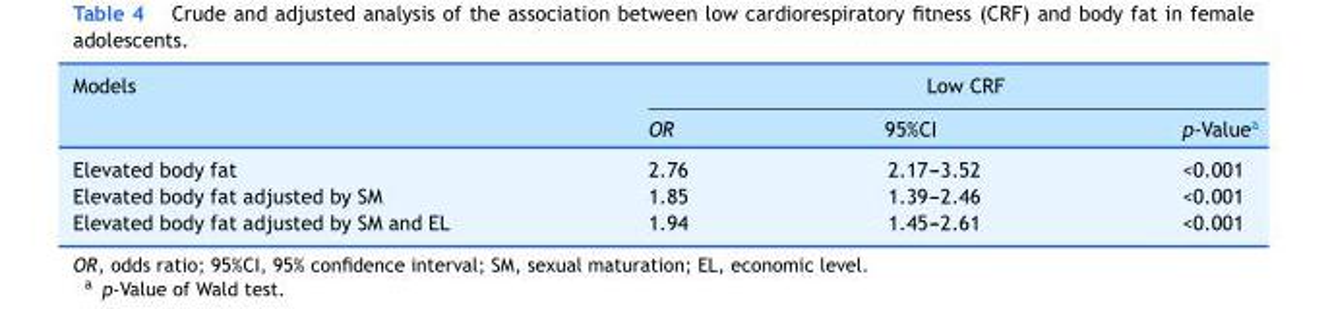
<table><thead><tr><td rowspan="2">Models</td><td colspan="3">Low CRF</td></tr><tr><td>OR</td><td>95%CI</td><td>p-Value<sup>a</sup></td></tr></thead><tbody><tr><td>Elevated body fat</td><td>2.76</td><td>2.17---3.52</td><td>&lt;0.001</td></tr><tr><td>Elevated body fat adjusted by SM</td><td>1.85</td><td>1.39---2.46</td><td>&lt;0.001</td></tr><tr><td>Elevated body fat adjusted by SM and EL</td><td>1.94</td><td>1.45---2.61</td><td>&lt;0.001</td></tr></tbody></table>